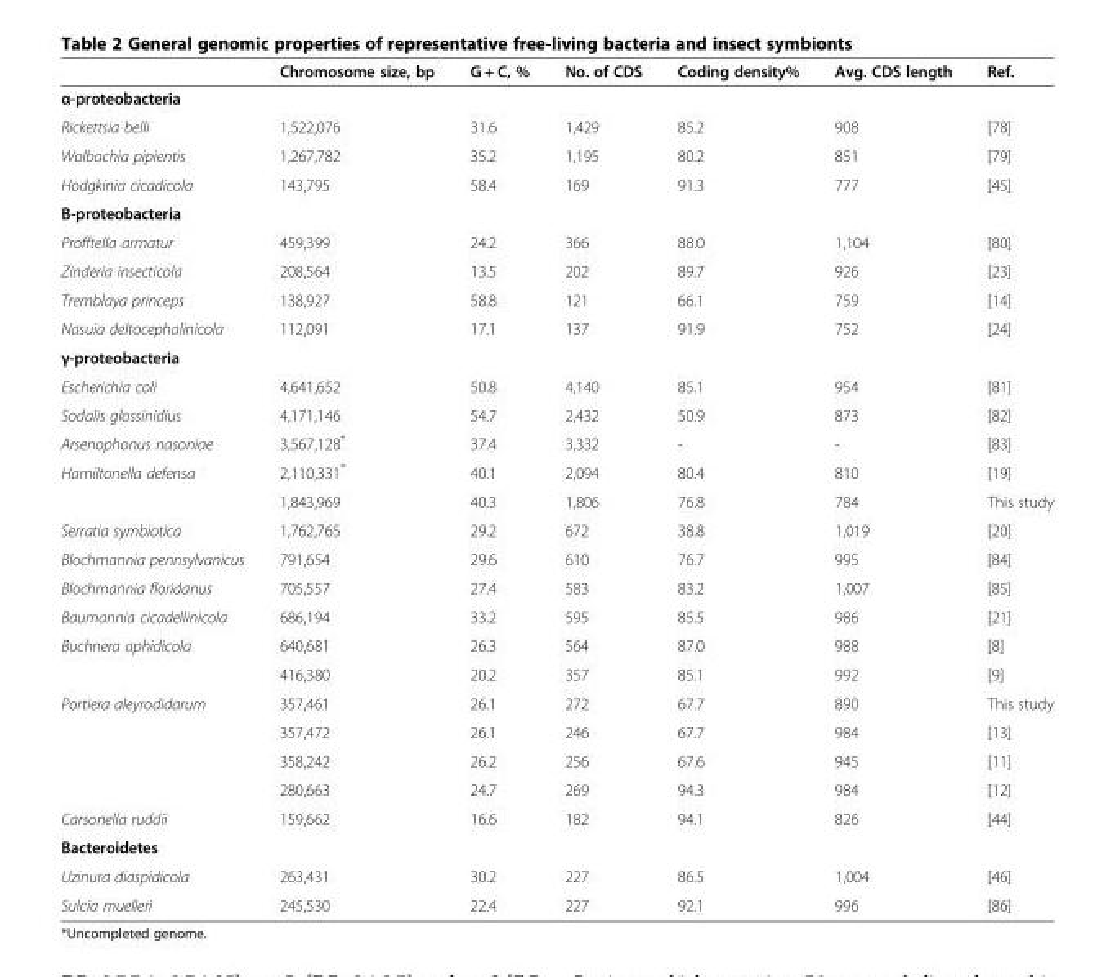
<table><thead><tr><td></td><td>Chromosome size, bp</td><td>G + C, %</td><td>No. of CDS</td><td>Coding density%</td><td>Avg. CDS length</td><td>Ref.</td></tr></thead><tbody><tr><td colspan="7">α-proteobacteria</td></tr><tr><td>Rickettsia belli</td><td>1,522,076</td><td>31.6</td><td>1,429</td><td>85.2</td><td>908</td><td>[78]</td></tr><tr><td>Wolbachia pipientis</td><td>1,267,782</td><td>35.2</td><td>1,195</td><td>80.2</td><td>851</td><td>[79]</td></tr><tr><td>Hodgkinia cicadicola</td><td>143,795</td><td>58.4</td><td>169</td><td>91.3</td><td>777</td><td>[45]</td></tr><tr><td colspan="7">Β-proteobacteria</td></tr><tr><td>Profftella armatur</td><td>459,399</td><td>24.2</td><td>366</td><td>88.0</td><td>1,104</td><td>[80]</td></tr><tr><td>Zinderia insecticola</td><td>208,564</td><td>13.5</td><td>202</td><td>89.7</td><td>926</td><td>[23]</td></tr><tr><td>Tremblaya princeps</td><td>138,927</td><td>58.8</td><td>121</td><td>66.1</td><td>759</td><td>[14]</td></tr><tr><td>Nasuia deltocephalinicola</td><td>112,091</td><td>17.1</td><td>137</td><td>91.9</td><td>752</td><td>[24]</td></tr><tr><td colspan="7">γ-proteobacteria</td></tr><tr><td>Escherichia coli</td><td>4,641,652</td><td>50.8</td><td>4,140</td><td>85.1</td><td>954</td><td>[81]</td></tr><tr><td>Sodalis glossinidius</td><td>4,171,146</td><td>54.7</td><td>2,432</td><td>50.9</td><td>873</td><td>[82]</td></tr><tr><td>Arsenophonus nasoniae</td><td>3,567,128*</td><td>37.4</td><td>3,332</td><td>-</td><td>-</td><td>[83]</td></tr><tr><td rowspan="2">Hamiltonella defensa</td><td>2,110,331*</td><td>40.1</td><td>2,094</td><td>80.4</td><td>810</td><td>[19]</td></tr><tr><td>1,843,969</td><td>40.3</td><td>1,806</td><td>76.8</td><td>784</td><td>This study</td></tr><tr><td>Serratia symbiotica</td><td>1,762,765</td><td>29.2</td><td>672</td><td>38.8</td><td>1,019</td><td>[20]</td></tr><tr><td>Blochmannia pennsylvanicus</td><td>791,654</td><td>29.6</td><td>610</td><td>76.7</td><td>995</td><td>[84]</td></tr><tr><td>Blochmannia floridanus</td><td>705,557</td><td>27.4</td><td>583</td><td>83.2</td><td>1,007</td><td>[85]</td></tr><tr><td>Baumannia cicadellinicola</td><td>686,194</td><td>33.2</td><td>595</td><td>85.5</td><td>986</td><td>[21]</td></tr><tr><td rowspan="2">Buchnera aphidicola</td><td>640,681</td><td>26.3</td><td>564</td><td>87.0</td><td>988</td><td>[8]</td></tr><tr><td>416,380</td><td>20.2</td><td>357</td><td>85.1</td><td>992</td><td>[9]</td></tr><tr><td rowspan="4">Portiera aleyrodidarum</td><td>357,461</td><td>26.1</td><td>272</td><td>67.7</td><td>890</td><td>This study</td></tr><tr><td>357,472</td><td>26.1</td><td>246</td><td>67.7</td><td>984</td><td>[13]</td></tr><tr><td>358,242</td><td>26.2</td><td>256</td><td>67.6</td><td>945</td><td>[11]</td></tr><tr><td>280,663</td><td>24.7</td><td>269</td><td>94.3</td><td>984</td><td>[12]</td></tr><tr><td>Carsonella ruddii</td><td>159,662</td><td>16.6</td><td>182</td><td>94.1</td><td>826</td><td>[44]</td></tr><tr><td colspan="7">Bacteroidetes</td></tr><tr><td>Uzinura diaspidicola</td><td>263,431</td><td>30.2</td><td>227</td><td>86.5</td><td>1,004</td><td>[46]</td></tr><tr><td>Sulcia muelleri</td><td>245,530</td><td>22.4</td><td>227</td><td>92.1</td><td>996</td><td>[86]</td></tr></tbody></table>